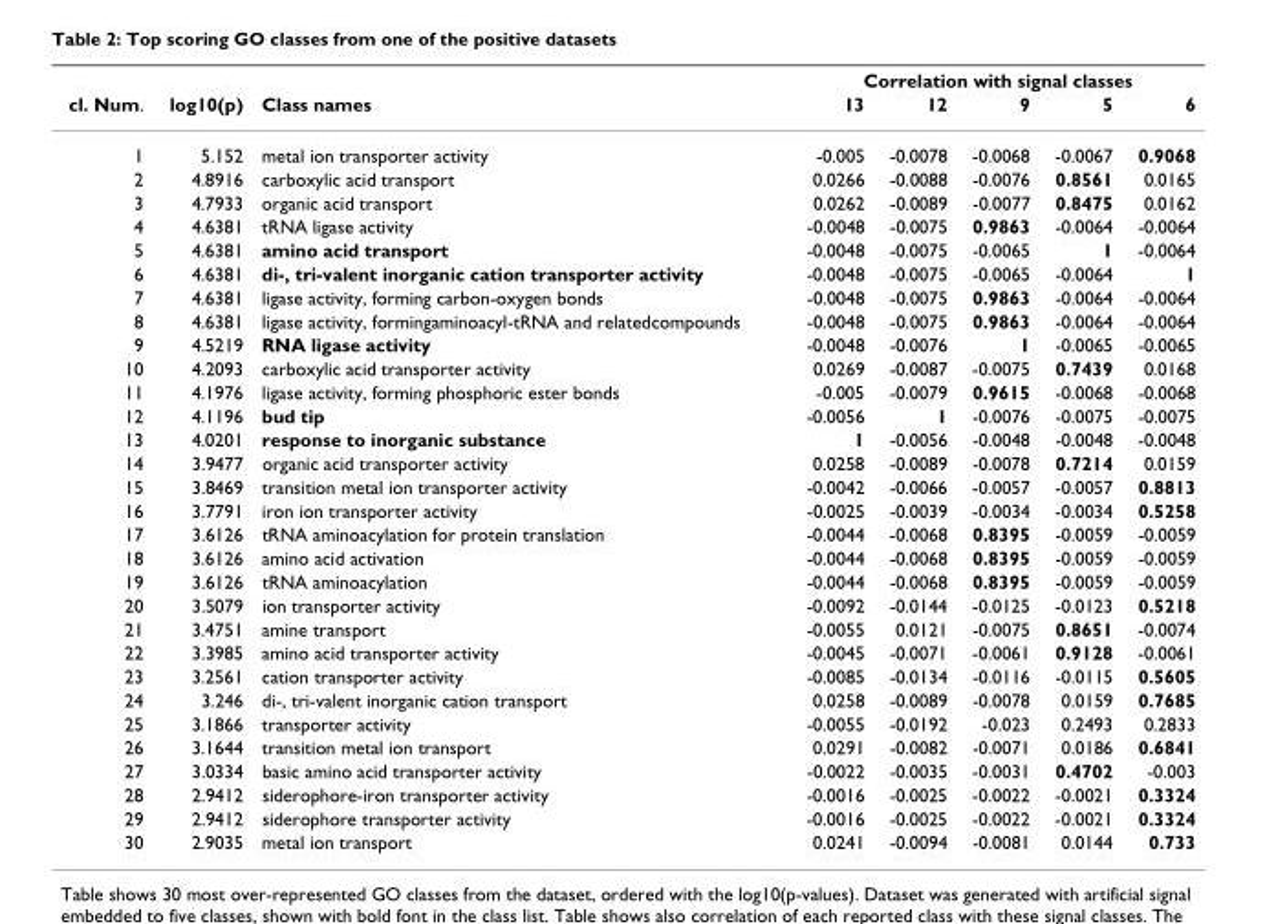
<table><thead><tr><td rowspan="2">cl. Num.</td><td rowspan="2">log10(p)</td><td rowspan="2">Class names</td><td colspan="5">Correlation with signal classes</td></tr><tr><td>13</td><td>12</td><td>9</td><td>5</td><td>6</td></tr></thead><tbody><tr><td>1</td><td>5.152</td><td>metal ion transporter activity</td><td>-0.005</td><td>-0.0078</td><td>-0.0068</td><td>-0.0067</td><td>0.9068</td></tr><tr><td>2</td><td>4.8916</td><td>carboxylic acid transport</td><td>0.0266</td><td>-0.0088</td><td>-0.0076</td><td>0.8561</td><td>0.0165</td></tr><tr><td>3</td><td>4.7933</td><td>organic acid transport</td><td>0.0262</td><td>-0.0089</td><td>-0.0077</td><td>0.8475</td><td>0.0162</td></tr><tr><td>4</td><td>4.6381</td><td>tRNA ligase activity</td><td>-0.0048</td><td>-0.0075</td><td>0.9863</td><td>-0.0064</td><td>-0.0064</td></tr><tr><td>5</td><td>4.6381</td><td>amino acid transport</td><td>-0.0048</td><td>-0.0075</td><td>-0.0065</td><td>1</td><td>-0.0064</td></tr><tr><td>6</td><td>4.6381</td><td>di-, tri-valent inorganic cation transporter activity</td><td>-0.0048</td><td>-0.0075</td><td>-0.0065</td><td>-0.0064</td><td>1</td></tr><tr><td>7</td><td>4.6381</td><td>ligase activity, forming carbon-oxygen bonds</td><td>-0.0048</td><td>-0.0075</td><td>0.9863</td><td>-0.0064</td><td>-0.0064</td></tr><tr><td>8</td><td>4.6381</td><td>ligase activity, formingaminoacyl-tRNA and relatedcompounds</td><td>-0.0048</td><td>-0.0075</td><td>0.9863</td><td>-0.0064</td><td>-0.0064</td></tr><tr><td>9</td><td>4.5219</td><td>RNA ligase activity</td><td>-0.0048</td><td>-0.0076</td><td>1</td><td>-0.0065</td><td>-0.0065</td></tr><tr><td>10</td><td>4.2093</td><td>carboxylic acid transporter activity</td><td>0.0269</td><td>-0.0087</td><td>-0.0075</td><td>0.7439</td><td>0.0168</td></tr><tr><td>11</td><td>4.1976</td><td>ligase activity, forming phosphoric ester bonds</td><td>-0.005</td><td>-0.0079</td><td>0.9615</td><td>-0.0068</td><td>-0.0068</td></tr><tr><td>12</td><td>4.1196</td><td>bud tip</td><td>-0.0056</td><td>1</td><td>-0.0076</td><td>-0.0075</td><td>-0.0075</td></tr><tr><td>13</td><td>4.0201</td><td>response to inorganic substance</td><td>1</td><td>-0.0056</td><td>-0.0048</td><td>-0.0048</td><td>-0.0048</td></tr><tr><td>14</td><td>3.9477</td><td>organic acid transporter activity</td><td>0.0258</td><td>-0.0089</td><td>-0.0078</td><td>0.7214</td><td>0.0159</td></tr><tr><td>15</td><td>3.8469</td><td>transition metal ion transporter activity</td><td>-0.0042</td><td>-0.0066</td><td>-0.0057</td><td>-0.0057</td><td>0.8813</td></tr><tr><td>16</td><td>3.7791</td><td>iron ion transporter activity</td><td>-0.0025</td><td>-0.0039</td><td>-0.0034</td><td>-0.0034</td><td>0.5258</td></tr><tr><td>17</td><td>3.6126</td><td>tRNA aminoacylation for protein translation</td><td>-0.0044</td><td>-0.0068</td><td>0.8395</td><td>-0.0059</td><td>-0.0059</td></tr><tr><td>18</td><td>3.6126</td><td>amino acid activation</td><td>-0.0044</td><td>-0.0068</td><td>0.8395</td><td>-0.0059</td><td>-0.0059</td></tr><tr><td>19</td><td>3.6126</td><td>tRNA aminoacylation</td><td>-0.0044</td><td>-0.0068</td><td>0.8395</td><td>-0.0059</td><td>-0.0059</td></tr><tr><td>20</td><td>3.5079</td><td>ion transporter activity</td><td>-0.0092</td><td>-0.0144</td><td>-0.0125</td><td>-0.0123</td><td>0.5218</td></tr><tr><td>21</td><td>3.4751</td><td>amine transport</td><td>-0.0055</td><td>0.0121</td><td>-0.0075</td><td>0.8651</td><td>-0.0074</td></tr><tr><td>22</td><td>3.3985</td><td>amino acid transporter activity</td><td>-0.0045</td><td>-0.0071</td><td>-0.0061</td><td>0.9128</td><td>-0.0061</td></tr><tr><td>23</td><td>3.2561</td><td>cation transporter activity</td><td>-0.0085</td><td>-0.0134</td><td>-0.0116</td><td>-0.0115</td><td>0.5605</td></tr><tr><td>24</td><td>3.246</td><td>di-, tri-valent inorganic cation transport</td><td>0.0258</td><td>-0.0089</td><td>-0.0078</td><td>0.0159</td><td>0.7685</td></tr><tr><td>25</td><td>3.1866</td><td>transporter activity</td><td>-0.0055</td><td>-0.0192</td><td>-0.023</td><td>0.2493</td><td>0.2833</td></tr><tr><td>26</td><td>3.1644</td><td>transition metal ion transport</td><td>0.0291</td><td>-0.0082</td><td>-0.0071</td><td>0.0186</td><td>0.6841</td></tr><tr><td>27</td><td>3.0334</td><td>basic amino acid transporter activity</td><td>-0.0022</td><td>-0.0035</td><td>-0.0031</td><td>0.4702</td><td>-0.003</td></tr><tr><td>28</td><td>2.9412</td><td>siderophore-iron transporter activity</td><td>-0.0016</td><td>-0.0025</td><td>-0.0022</td><td>-0.0021</td><td>0.3324</td></tr><tr><td>29</td><td>2.9412</td><td>siderophore transporter activity</td><td>-0.0016</td><td>-0.0025</td><td>-0.0022</td><td>-0.0021</td><td>0.3324</td></tr><tr><td>30</td><td>2.9035</td><td>metal ion transport</td><td>0.0241</td><td>-0.0094</td><td>-0.0081</td><td>0.0144</td><td>0.733</td></tr></tbody></table>